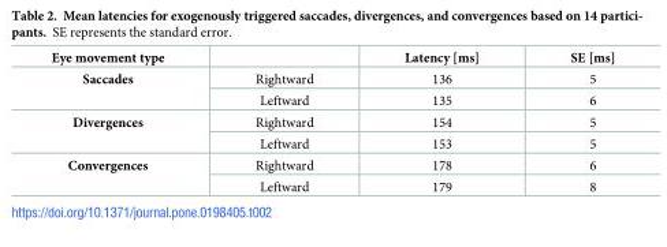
<table><thead><tr><td>Eye movement type</td><td></td><td>Latency [ms]</td><td>SE [ms]</td></tr></thead><tbody><tr><td rowspan="2">Saccades</td><td>Rightward</td><td>136</td><td>5</td></tr><tr><td>Leftward</td><td>135</td><td>6</td></tr><tr><td rowspan="2">Divergences</td><td>Rightward</td><td>154</td><td>5</td></tr><tr><td>Leftward</td><td>153</td><td>5</td></tr><tr><td rowspan="2">Convergences</td><td>Rightward</td><td>178</td><td>6</td></tr><tr><td>Leftward</td><td>179</td><td>8</td></tr></tbody></table>